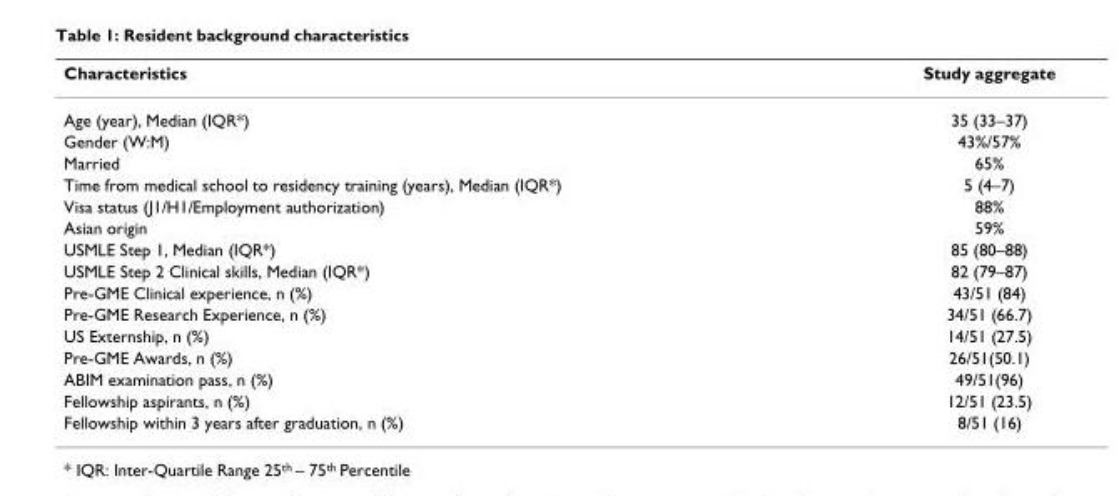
<table><thead><tr><td>Characteristics</td><td>Study aggregate</td></tr></thead><tbody><tr><td>Age (year), Median (IQR*)</td><td>35 (33–37)</td></tr><tr><td>Gender (W:M)</td><td>43%/57%</td></tr><tr><td>Married</td><td>65%</td></tr><tr><td>Time from medical school to residency training (years), Median (IQR*)</td><td>5 (4–7)</td></tr><tr><td>Visa status (J1/H1/Employment authorization)</td><td>88%</td></tr><tr><td>Asian origin</td><td>59%</td></tr><tr><td>USMLE Step 1, Median (IQR*)</td><td>85 (80–88)</td></tr><tr><td>USMLE Step 2 Clinical skills, Median (IQR*)</td><td>82 (79–87)</td></tr><tr><td>Pre-GME Clinical experience, n (%)</td><td>43/51 (84)</td></tr><tr><td>Pre-GME Research Experience, n (%)</td><td>34/51 (66.7)</td></tr><tr><td>US Externship, n (%)</td><td>14/51 (27.5)</td></tr><tr><td>Pre-GME Awards, n (%)</td><td>26/51(50.1)</td></tr><tr><td>ABIM examination pass, n (%)</td><td>49/51(96)</td></tr><tr><td>Fellowship aspirants, n (%)</td><td>12/51 (23.5)</td></tr><tr><td>Fellowship within 3 years after graduation, n (%)</td><td>8/51 (16)</td></tr></tbody></table>